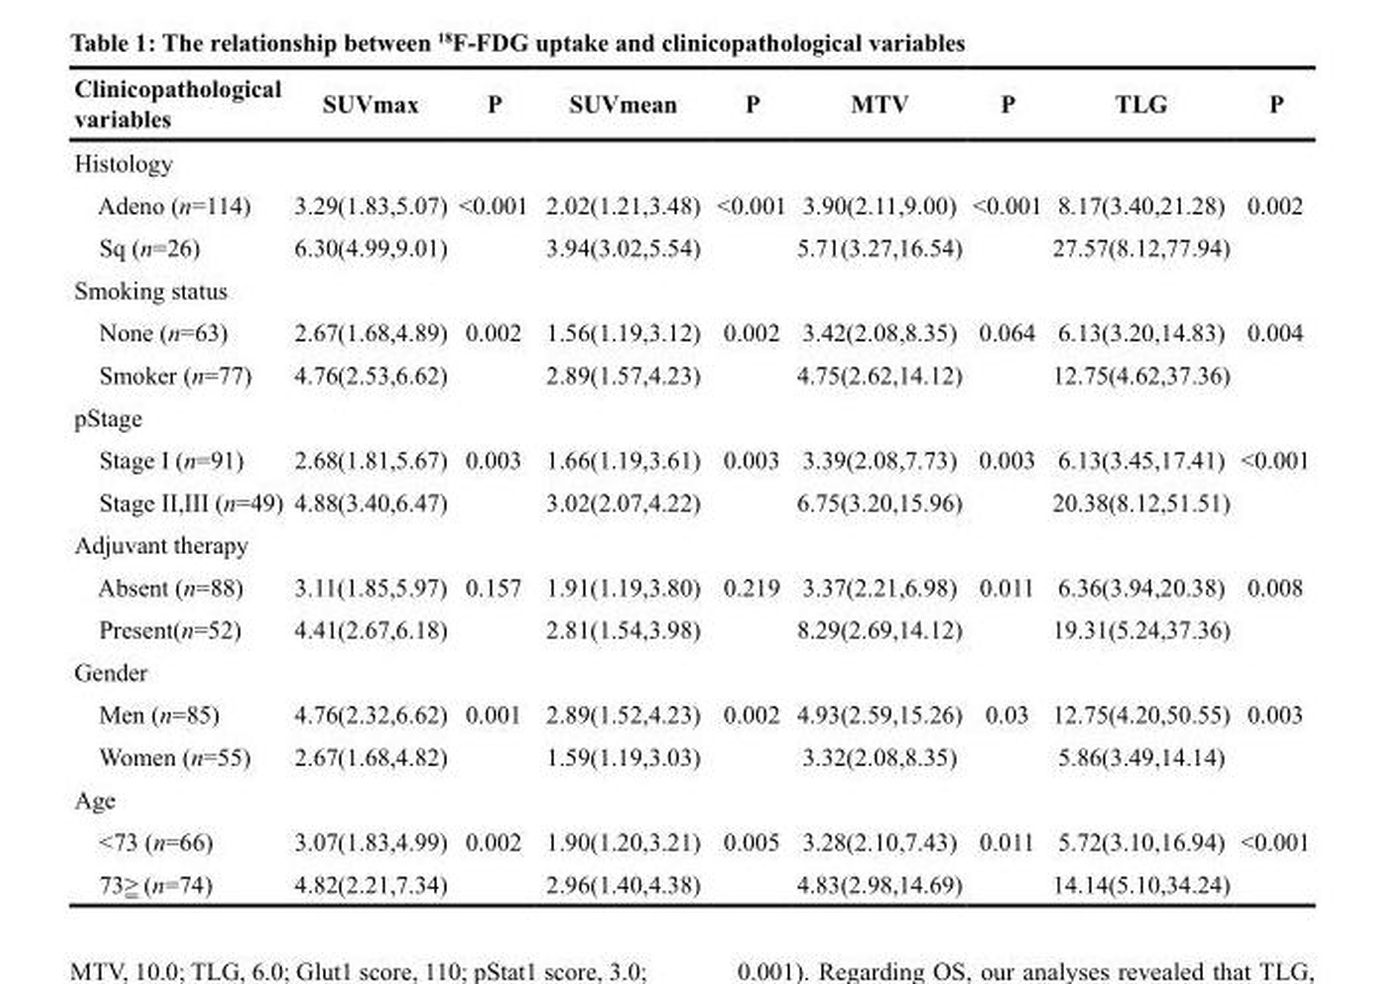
<table><thead><tr><td>Clinicopathological variables</td><td>SUVmax</td><td>P</td><td>SUVmean</td><td>P</td><td>MTV</td><td>P</td><td>TLG</td><td>P</td></tr></thead><tbody><tr><td colspan="9">Histology</td></tr><tr><td>Adeno (n=114)</td><td>3.29(1.83,5.07)</td><td>&lt;0.001</td><td>2.02(1.21,3.48)</td><td>&lt;0.001</td><td>3.90(2.11,9.00)</td><td>&lt;0.001</td><td>8.17(3.40,21.28)</td><td>0.002</td></tr><tr><td>Sq (n=26)</td><td>6.30(4.99,9.01)</td><td></td><td>3.94(3.02,5.54)</td><td></td><td>5.71(3.27,16.54)</td><td></td><td>27.57(8.12,77.94)</td><td></td></tr><tr><td colspan="9">Smoking status</td></tr><tr><td>None (n=63)</td><td>2.67(1.68,4.89)</td><td>0.002</td><td>1.56(1.19,3.12)</td><td>0.002</td><td>3.42(2.08,8.35)</td><td>0.064</td><td>6.13(3.20,14.83)</td><td>0.004</td></tr><tr><td>Smoker (n=77)</td><td>4.76(2.53,6.62)</td><td></td><td>2.89(1.57,4.23)</td><td></td><td>4.75(2.62,14.12)</td><td></td><td>12.75(4.62,37.36)</td><td></td></tr><tr><td colspan="9">pStage</td></tr><tr><td>Stage I (n=91)</td><td>2.68(1.81,5.67)</td><td>0.003</td><td>1.66(1.19,3.61)</td><td>0.003</td><td>3.39(2.08,7.73)</td><td>0.003</td><td>6.13(3.45,17.41)</td><td>&lt;0.001</td></tr><tr><td>Stage II,III (n=49)</td><td>4.88(3.40,6.47)</td><td></td><td>3.02(2.07,4.22)</td><td></td><td>6.75(3.20,15.96)</td><td></td><td>20.38(8.12,51.51)</td><td></td></tr><tr><td colspan="9">Adjuvant therapy</td></tr><tr><td>Absent (n=88)</td><td>3.11(1.85,5.97)</td><td>0.157</td><td>1.91(1.19,3.80)</td><td>0.219</td><td>3.37(2.21,6.98)</td><td>0.011</td><td>6.36(3.94,20.38)</td><td>0.008</td></tr><tr><td>Present(n=52)</td><td>4.41(2.67,6.18)</td><td></td><td>2.81(1.54,3.98)</td><td></td><td>8.29(2.69,14.12)</td><td></td><td>19.31(5.24,37.36)</td><td></td></tr><tr><td colspan="9">Gender</td></tr><tr><td>Men (n=85)</td><td>4.76(2.32,6.62)</td><td>0.001</td><td>2.89(1.52,4.23)</td><td>0.002</td><td>4.93(2.59,15.26)</td><td>0.03</td><td>12.75(4.20,50.55)</td><td>0.003</td></tr><tr><td>Women (n=55)</td><td>2.67(1.68,4.82)</td><td></td><td>1.59(1.19,3.03)</td><td></td><td>3.32(2.08,8.35)</td><td></td><td>5.86(3.49,14.14)</td><td></td></tr><tr><td colspan="9">Age</td></tr><tr><td>&lt;73 (n=66)</td><td>3.07(1.83,4.99)</td><td>0.002</td><td>1.90(1.20,3.21)</td><td>0.005</td><td>3.28(2.10,7.43)</td><td>0.011</td><td>5.72(3.10,16.94)</td><td>&lt;0.001</td></tr><tr><td>73≥– (n=74)</td><td>4.82(2.21,7.34)</td><td></td><td>2.96(1.40,4.38)</td><td></td><td>4.83(2.98,14.69)</td><td></td><td>14.14(5.10,34.24)</td><td></td></tr></tbody></table>